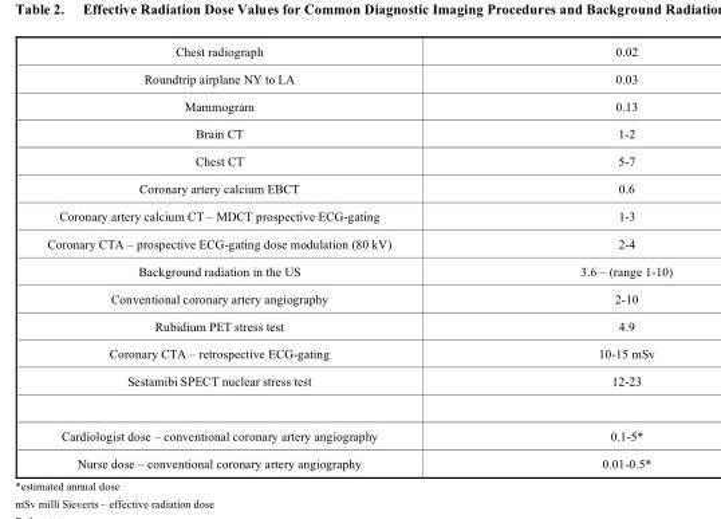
<table><tbody><tr><td>Chest radiograph</td><td>0.02</td></tr><tr><td>Roundtrip airplane NY to LA</td><td>0.03</td></tr><tr><td>Mammogram</td><td>0.13</td></tr><tr><td>Brain CT</td><td>1-2</td></tr><tr><td>Chest CT</td><td>5-7</td></tr><tr><td>Coronary artery calcium EBCT</td><td>0.6</td></tr><tr><td>Coronary artery calcium CT – MDCT prospective ECG-gating</td><td>1-3</td></tr><tr><td>Coronary CTA – prospective ECG-gating dose modulation (80 kV)</td><td>2-4</td></tr><tr><td>Background radiation in the US</td><td>3.6 – (range 1-10)</td></tr><tr><td>Conventional coronary artery angiography</td><td>2-10</td></tr><tr><td>Rubidium PET stress test</td><td>4.9</td></tr><tr><td>Coronary CTA – retrospective ECG-gating</td><td>10-15 mSv</td></tr><tr><td>Sestamibi SPECT nuclear stress test</td><td>12-23</td></tr><tr><td>Cardiologist dose – conventional coronary artery angiography</td><td>0.1-5*</td></tr><tr><td>Nurse dose – conventional coronary artery angiography</td><td>0.01-0.5*</td></tr></tbody></table>